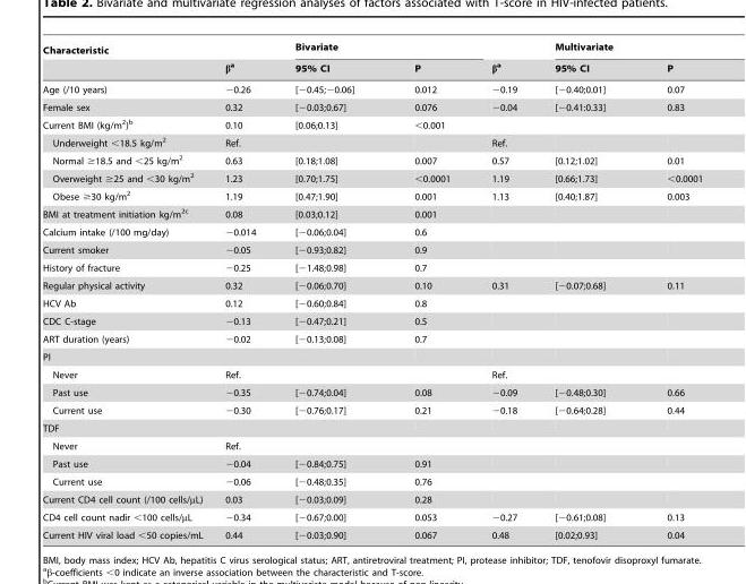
<table><thead><tr><td rowspan="2">Characteristic</td><td rowspan="2">β<sup>a</sup></td><td colspan="2">Bivariate</td><td rowspan="2">β<sup>a</sup></td><td colspan="2">Multivariate</td></tr><tr><td>95% CI</td><td>P</td><td>95% CI</td><td>P</td></tr></thead><tbody><tr><td>Age (/10 years)</td><td>−0.26</td><td>[−0.45;−0.06]</td><td>0.012</td><td>−0.19</td><td>[−0.40;0.01]</td><td>0.07</td></tr><tr><td>Female sex</td><td>0.32</td><td>[−0.03;0.67]</td><td>0.076</td><td>−0.04</td><td>[−0.41:0.33]</td><td>0.83</td></tr><tr><td>Current BMI (kg/m<sup>2</sup>)<sup>b</sup></td><td>0.10</td><td>[0.06;0.13]</td><td>&lt;0.001</td><td></td><td></td><td></td></tr><tr><td>Underweight &lt;18.5 kg/m<sup>2</sup></td><td>Ref.</td><td></td><td></td><td>Ref.</td><td></td><td></td></tr><tr><td>Normal ≥18.5 and &lt;25 kg/m<sup>2</sup></td><td>0.63</td><td>[0.18;1.08]</td><td>0.007</td><td>0.57</td><td>[0.12;1.02]</td><td>0.01</td></tr><tr><td>Overweight ≥25 and &lt;30 kg/m<sup>2</sup></td><td>1.23</td><td>[0.70;1.75]</td><td>&lt;0.0001</td><td>1.19</td><td>[0.66;1.73]</td><td>&lt;0.0001</td></tr><tr><td>Obese ≥30 kg/m<sup>2</sup></td><td>1.19</td><td>[0.47;1.90]</td><td>0.001</td><td>1.13</td><td>[0.40;1.87]</td><td>0.003</td></tr><tr><td>BMI at treatment initiation kg/m<sup>2</sup>c</td><td>0.08</td><td>[0.03;0.12]</td><td>0.001</td><td></td><td></td><td></td></tr><tr><td>Calcium intake (/100 mg/day)</td><td>−0.014</td><td>[−0.06;0.04]</td><td>0.6</td><td></td><td></td><td></td></tr><tr><td>Current smoker</td><td>−0.05</td><td>[−0.93;0.82]</td><td>0.9</td><td></td><td></td><td></td></tr><tr><td>History of fracture</td><td>−0.25</td><td>[−1.48;0.98]</td><td>0.7</td><td></td><td></td><td></td></tr><tr><td>Regular physical activity</td><td>0.32</td><td>[−0.06;0.70]</td><td>0.10</td><td>0.31</td><td>[−0.07;0.68]</td><td>0.11</td></tr><tr><td>HCV Ab</td><td>0.12</td><td>[−0.60;0.84]</td><td>0.8</td><td></td><td></td><td></td></tr><tr><td>CDC C-stage</td><td>−0.13</td><td>[−0.47;0.21]</td><td>0.5</td><td></td><td></td><td></td></tr><tr><td>ART duration (years)</td><td>−0.02</td><td>[−0.13;0.08]</td><td>0.7</td><td></td><td></td><td></td></tr><tr><td colspan="7">PI</td></tr><tr><td>Never</td><td>Ref.</td><td></td><td></td><td>Ref.</td><td></td><td></td></tr><tr><td>Past use</td><td>−0.35</td><td>[−0.74;0.04]</td><td>0.08</td><td>−0.09</td><td>[−0.48;0.30]</td><td>0.66</td></tr><tr><td>Current use</td><td>−0.30</td><td>[−0.76;0.17]</td><td>0.21</td><td>−0.18</td><td>[−0.64;0.28]</td><td>0.44</td></tr><tr><td colspan="7">TDF</td></tr><tr><td>Never</td><td>Ref.</td><td></td><td></td><td></td><td></td><td></td></tr><tr><td>Past use</td><td>−0.04</td><td>[−0.84;0.75]</td><td>0.91</td><td></td><td></td><td></td></tr><tr><td>Current use</td><td>−0.06</td><td>[−0.48;0.35]</td><td>0.76</td><td></td><td></td><td></td></tr><tr><td>Current CD4 cell count (/100 cells/µL)</td><td>0.03</td><td>[−0.03;0.09]</td><td>0.28</td><td></td><td></td><td></td></tr><tr><td>CD4 cell count nadir &lt;100 cells/µL</td><td>−0.34</td><td>[−0.67;0.00]</td><td>0.053</td><td>−0.27</td><td>[−0.61;0.08]</td><td>0.13</td></tr><tr><td>Current HIV viral load &lt;50 copies/mL</td><td>0.44</td><td>[−0.03;0.90]</td><td>0.067</td><td>0.48</td><td>[0.02;0.93]</td><td>0.04</td></tr></tbody></table>